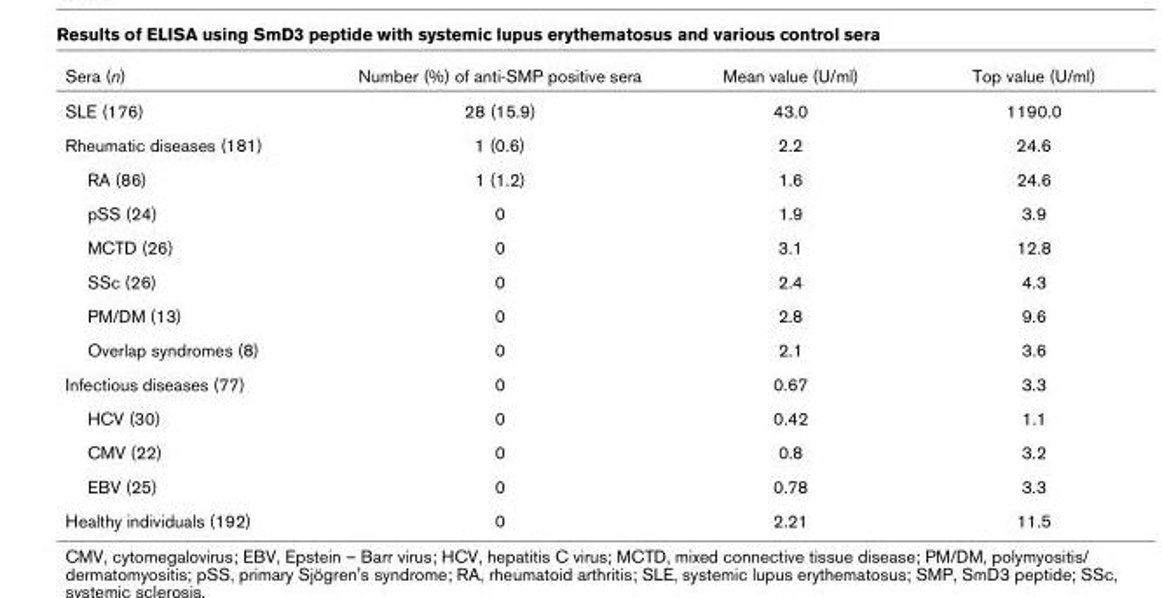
<table><thead><tr><td>Sera (n)</td><td>Number (%) of anti-SMP positive sera</td><td>Mean value (U/ml)</td><td>Top value (U/ml)</td></tr></thead><tbody><tr><td>SLE (176)</td><td>28 (15.9)</td><td>43.0</td><td>1190.0</td></tr><tr><td>Rheumatic diseases (181)</td><td>1 (0.6)</td><td>2.2</td><td>24.6</td></tr><tr><td>RA (86)</td><td>1 (1.2)</td><td>1.6</td><td>24.6</td></tr><tr><td>pSS (24)</td><td>0</td><td>1.9</td><td>3.9</td></tr><tr><td>MCTD (26)</td><td>0</td><td>3.1</td><td>12.8</td></tr><tr><td>SSc (26)</td><td>0</td><td>2.4</td><td>4.3</td></tr><tr><td>PM/DM (13)</td><td>0</td><td>2.8</td><td>9.6</td></tr><tr><td>Overlap syndromes (8)</td><td>0</td><td>2.1</td><td>3.6</td></tr><tr><td>Infectious diseases (77)</td><td>0</td><td>0.67</td><td>3.3</td></tr><tr><td>HCV (30)</td><td>0</td><td>0.42</td><td>1.1</td></tr><tr><td>CMV (22)</td><td>0</td><td>0.8</td><td>3.2</td></tr><tr><td>EBV (25)</td><td>0</td><td>0.78</td><td>3.3</td></tr><tr><td>Healthy individuals (192)</td><td>0</td><td>2.21</td><td>11.5</td></tr></tbody></table>